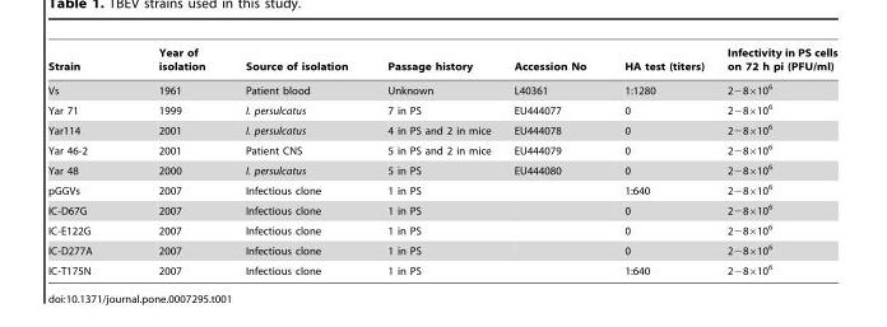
<table><thead><tr><td>Strain</td><td>Year of isolation</td><td>Source of isolation</td><td>Passage history</td><td>Accession No</td><td>HA test (titers)</td><td>Infectivity in PS cells on 72 h pi (PFU/ml)</td></tr></thead><tbody><tr><td>Vs</td><td>1961</td><td>Patient blood</td><td>Unknown</td><td>L40361</td><td>1:1280</td><td>2−8×10<sup>6</sup></td></tr><tr><td>Yar 71</td><td>1999</td><td>I. persulcatus</td><td>7 in PS</td><td>EU444077</td><td>0</td><td>2−8×10<sup>6</sup></td></tr><tr><td>Yar114</td><td>2001</td><td>I. persulcatus</td><td>4 in PS and 2 in mice</td><td>EU444078</td><td>0</td><td>2−8×10<sup>6</sup></td></tr><tr><td>Yar 46-2</td><td>2001</td><td>Patient CNS</td><td>5 in PS and 2 in mice</td><td>EU444079</td><td>0</td><td>2−8×10<sup>6</sup></td></tr><tr><td>Yar 48</td><td>2000</td><td>I. persulcatus</td><td>5 in PS</td><td>EU444080</td><td>0</td><td>2−8×10<sup>6</sup></td></tr><tr><td>pGGVs</td><td>2007</td><td>Infectious clone</td><td>1 in PS</td><td></td><td>1:640</td><td>2−8×10<sup>6</sup></td></tr><tr><td>IC-D67G</td><td>2007</td><td>Infectious clone</td><td>1 in PS</td><td></td><td>0</td><td>2−8×10<sup>6</sup></td></tr><tr><td>IC-E122G</td><td>2007</td><td>Infectious clone</td><td>1 in PS</td><td></td><td>0</td><td>2−8×10<sup>6</sup></td></tr><tr><td>IC-D277A</td><td>2007</td><td>Infectious clone</td><td>1 in PS</td><td></td><td>0</td><td>2−8×10<sup>6</sup></td></tr><tr><td>IC-T175N</td><td>2007</td><td>Infectious clone</td><td>1 in PS</td><td></td><td>1:640</td><td>2−8×10<sup>6</sup></td></tr></tbody></table>